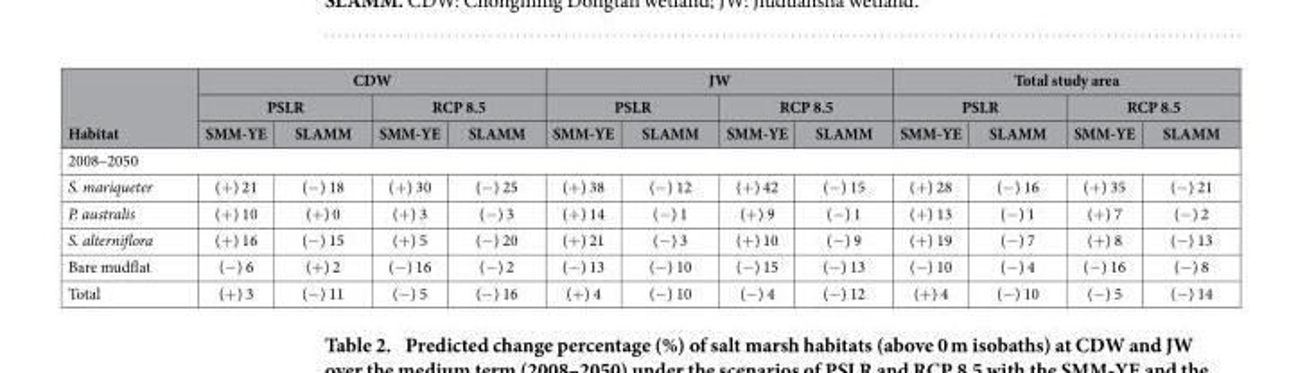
<table><thead><tr><td rowspan="3">Habitat</td><td colspan="4">CDW</td><td colspan="4">JW</td><td colspan="4">Total study area</td></tr><tr><td colspan="2">PSLR</td><td colspan="2">RCP 8.5</td><td colspan="2">PSLR</td><td colspan="2">RCP 8.5</td><td colspan="2">PSLR</td><td colspan="2">RCP 8.5</td></tr><tr><td>SMM-YE</td><td>SLAMM</td><td>SMM-YE</td><td>SLAMM</td><td>SMM-YE</td><td>SLAMM</td><td>SMM-YE</td><td>SLAMM</td><td>SMM-YE</td><td>SLAMM</td><td>SMM-YE</td><td>SLAMM</td></tr></thead><tbody><tr><td colspan="13">2008–2050</td></tr><tr><td>S. mariqueter</td><td>(+ ) 21</td><td>(− ) 18</td><td>(+ ) 30</td><td>(− ) 25</td><td>(+ ) 38</td><td>(− ) 12</td><td>(+ ) 42</td><td>(− ) 15</td><td>(+ ) 28</td><td>(− ) 16</td><td>(+ ) 35</td><td>(− ) 21</td></tr><tr><td>P. australis</td><td>(+ ) 10</td><td>(+ ) 0</td><td>(+ ) 3</td><td>(− ) 3</td><td>(+ ) 14</td><td>(− ) 1</td><td>(+ ) 9</td><td>(− ) 1</td><td>(+ ) 13</td><td>(− ) 1</td><td>(+ ) 7</td><td>(− ) 2</td></tr><tr><td>S. alterniflora</td><td>(+ ) 16</td><td>(− ) 15</td><td>(+ ) 5</td><td>(− ) 20</td><td>(+ ) 21</td><td>(− ) 3</td><td>(+ ) 10</td><td>(− ) 9</td><td>(+ ) 19</td><td>(− ) 7</td><td>(+ ) 8</td><td>(− ) 13</td></tr><tr><td>Bare mudflat</td><td>(− ) 6</td><td>(+ ) 2</td><td>(− ) 16</td><td>(− ) 2</td><td>(− ) 13</td><td>(− ) 10</td><td>(− ) 15</td><td>(− ) 13</td><td>(− ) 10</td><td>(− ) 4</td><td>(− ) 16</td><td>(− ) 8</td></tr><tr><td>Total</td><td>(+ ) 3</td><td>(− ) 11</td><td>(− ) 5</td><td>(− ) 16</td><td>(+ ) 4</td><td>(− ) 10</td><td>(− ) 4</td><td>(− ) 12</td><td>(+ ) 4</td><td>(− ) 10</td><td>(− ) 5</td><td>(− ) 14</td></tr></tbody></table>